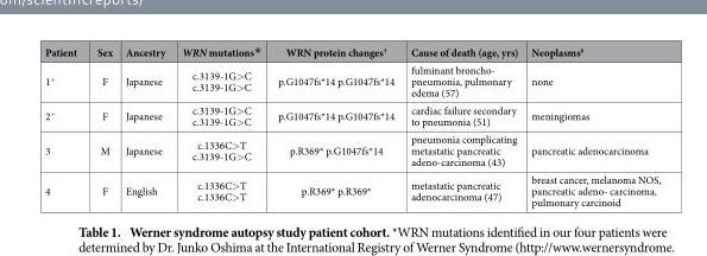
<table><thead><tr><td>Patient</td><td>Sex</td><td>Ancestry</td><td>WRN mutations*</td><td>WRN protein changes†</td><td>Cause of death (age, yrs)</td><td>Neoplasms‡</td></tr></thead><tbody><tr><td>1+</td><td>F</td><td>Japanese</td><td>c.3139-1G&gt; C c.3139-1G&gt; C</td><td>p.G1047fs*14 p.G1047fs*14</td><td>fulminant broncho- pneumonia, pulmonary edema (57)</td><td>none</td></tr><tr><td>2+</td><td>F</td><td>Japanese</td><td>c.3139-1G&gt; C c.3139-1G&gt; C</td><td>p.G1047fs*14 p.G1047fs*14</td><td>cardiac failure secondary to pneumonia (51)</td><td>meningiomas</td></tr><tr><td>3</td><td>M</td><td>Japanese</td><td>c.1336C&gt; T c.3139-1G&gt; C</td><td>p.R369* p.G1047fs*14</td><td>pneumonia complicating metastatic pancreatic adeno-carcinoma (43)</td><td>pancreatic adenocarcinoma</td></tr><tr><td>4</td><td>F</td><td>English</td><td>c.1336C&gt; T c.1336C&gt; T</td><td>p.R369* p.R369*</td><td>metastatic pancreatic adenocarcinoma (47)</td><td>breast cancer, melanoma NOS, pancreatic adeno- carcinoma, pulmonary carcinoid</td></tr></tbody></table>